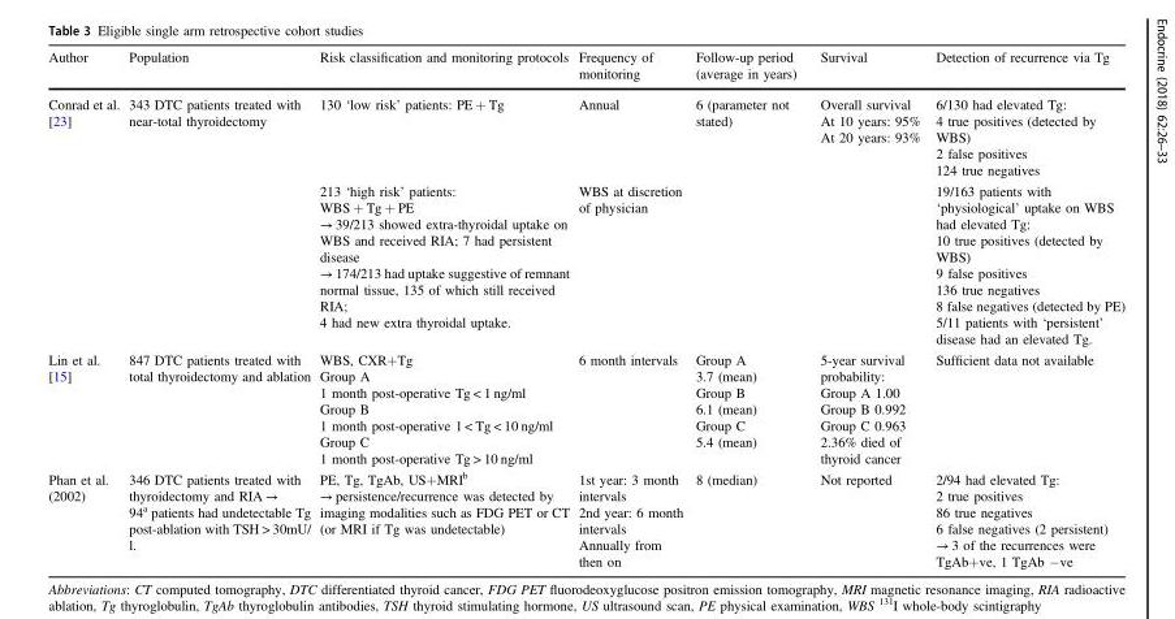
<table><thead><tr><td>Author</td><td>Population</td><td>Risk classification and monitoring protocols</td><td>Frequency of monitoring</td><td>Follow-up period (average in years)</td><td>Survival</td><td>Detection of recurrence via Tg</td></tr></thead><tbody><tr><td rowspan="2">Conrad et al. [23]</td><td>343 DTC patients treated with near-total thyroidectomy</td><td>130 ‘low risk’ patients: PE + Tg</td><td>Annual</td><td>6 (parameter not stated)</td><td>Overall survival At 10 years: 95% At 20 years: 93%</td><td>6/130 had elevated Tg: 4 true positives (detected by WBS) 2 false positives 124 true negatives</td></tr><tr><td></td><td>213 ‘high risk’ patients: WBS + Tg + PE → 39/213 showed extra-thyroidal uptake on WBS and received RIA; 7 had persistent disease → 174/213 had uptake suggestive of remnant normal tissue, 135 of which still received RIA; 4 had new extra thyroidal uptake.</td><td>WBS at discretion of physician</td><td></td><td></td><td>19/163 patients with ‘physiological’ uptake on WBS had elevated Tg: 10 true positives (detected by WBS) 9 false positives 136 true negatives 8 false negatives (detected by PE) 5/11 patients with ‘persistent’ disease had an elevated Tg.</td></tr><tr><td>Lin et al. [15]</td><td>847 DTC patients treated with total thyroidectomy and ablation</td><td>WBS, CXR+Tg Group A 1 month post-operative Tg &lt; 1 ng/ml Group B 1 month post-operative 1 &lt; Tg &lt; 10 ng/ml Group C 1 month post-operative Tg &gt; 10 ng/ml</td><td>6 month intervals</td><td>Group A 3.7 (mean) Group B 6.1 (mean) Group C 5.4 (mean)</td><td>5-year survival probability: Group A 1.00 Group B 0.992 Group C 0.963 2.36% died of thyroid cancer</td><td>Sufficient data not available</td></tr><tr><td>Phan et al. (2002)</td><td>346 DTC patients treated with thyroidectomy and RIA → 94<sup>a</sup> patients had undetectable Tg post-ablation with TSH &gt; 30mU/ l.</td><td>PE, Tg, TgAb, US+MRI<sup>b</sup> → persistence/recurrence was detected by imaging modalities such as FDG PET or CT (or MRI if Tg was undetectable)</td><td>1st year: 3 month intervals 2nd year: 6 month intervals Annually from then on</td><td>8 (median)</td><td>Not reported</td><td>2/94 had elevated Tg: 2 true positives 86 true negatives 6 false negatives (2 persistent) → 3 of the recurrences were TgAb+ve, 1 TgAb −ve</td></tr></tbody></table>